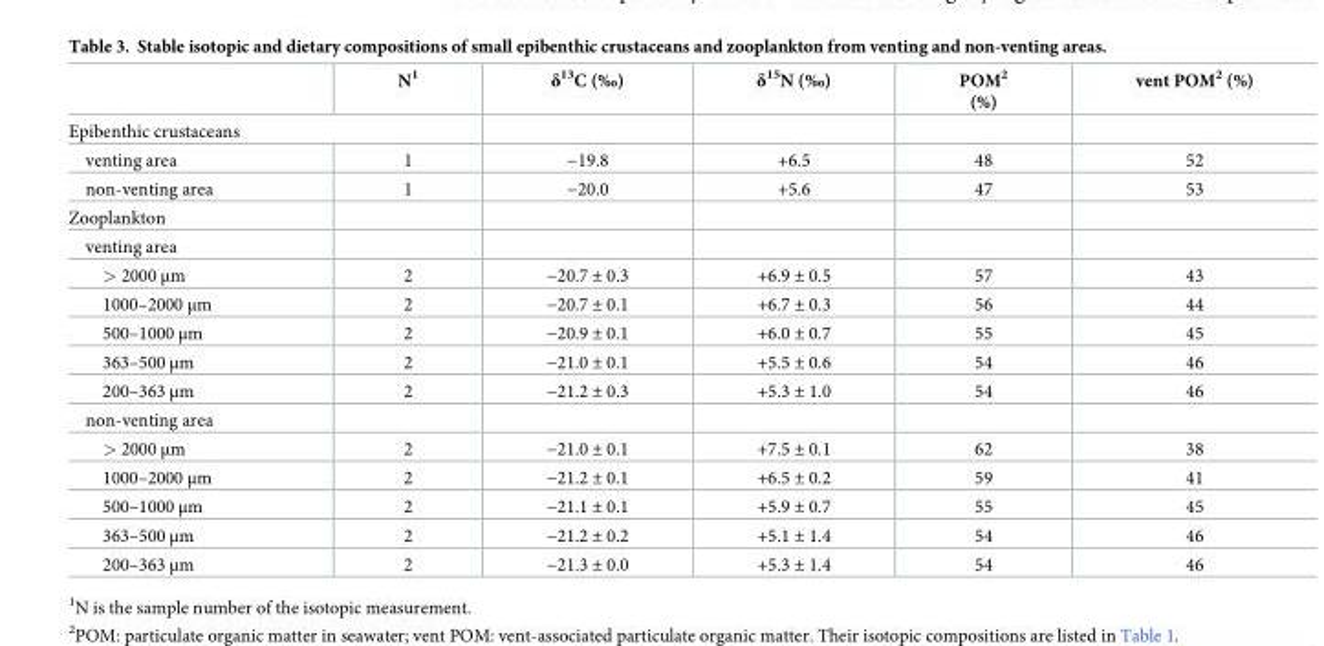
<table><thead><tr><td></td><td>N<sup>1</sup></td><td>δ<sup>13</sup>C (‰)</td><td>δ<sup>15</sup>N (‰)</td><td>POM<sup>2</sup> (%)</td><td>vent POM<sup>2</sup> (%)</td></tr></thead><tbody><tr><td colspan="6">Epibenthic crustaceans</td></tr><tr><td>venting area</td><td>1</td><td>−19.8</td><td>+6.5</td><td>48</td><td>52</td></tr><tr><td>non-venting area</td><td>1</td><td>−20.0</td><td>+5.6</td><td>47</td><td>53</td></tr><tr><td colspan="6">Zooplankton</td></tr><tr><td colspan="6">venting area</td></tr><tr><td>&gt; 2000 μm</td><td>2</td><td>−20.7 ± 0.3</td><td>+6.9 ± 0.5</td><td>57</td><td>43</td></tr><tr><td>1000–2000 μm</td><td>2</td><td>−20.7 ± 0.1</td><td>+6.7 ± 0.3</td><td>56</td><td>44</td></tr><tr><td>500–1000 μm</td><td>2</td><td>−20.9 ± 0.1</td><td>+6.0 ± 0.7</td><td>55</td><td>45</td></tr><tr><td>363–500 μm</td><td>2</td><td>−21.0 ± 0.1</td><td>+5.5 ± 0.6</td><td>54</td><td>46</td></tr><tr><td>200–363 μm</td><td>2</td><td>−21.2 ± 0.3</td><td>+5.3 ± 1.0</td><td>54</td><td>46</td></tr><tr><td colspan="6">non-venting area</td></tr><tr><td>&gt; 2000 μm</td><td>2</td><td>−21.0 ± 0.1</td><td>+7.5 ± 0.1</td><td>62</td><td>38</td></tr><tr><td>1000–2000 μm</td><td>2</td><td>−21.2 ± 0.1</td><td>+6.5 ± 0.2</td><td>59</td><td>41</td></tr><tr><td>500–1000 μm</td><td>2</td><td>−21.1 ± 0.1</td><td>+5.9 ± 0.7</td><td>55</td><td>45</td></tr><tr><td>363–500 μm</td><td>2</td><td>−21.2 ± 0.2</td><td>+5.1 ± 1.4</td><td>54</td><td>46</td></tr><tr><td>200–363 μm</td><td>2</td><td>−21.3 ± 0.0</td><td>+5.3 ± 1.4</td><td>54</td><td>46</td></tr></tbody></table>